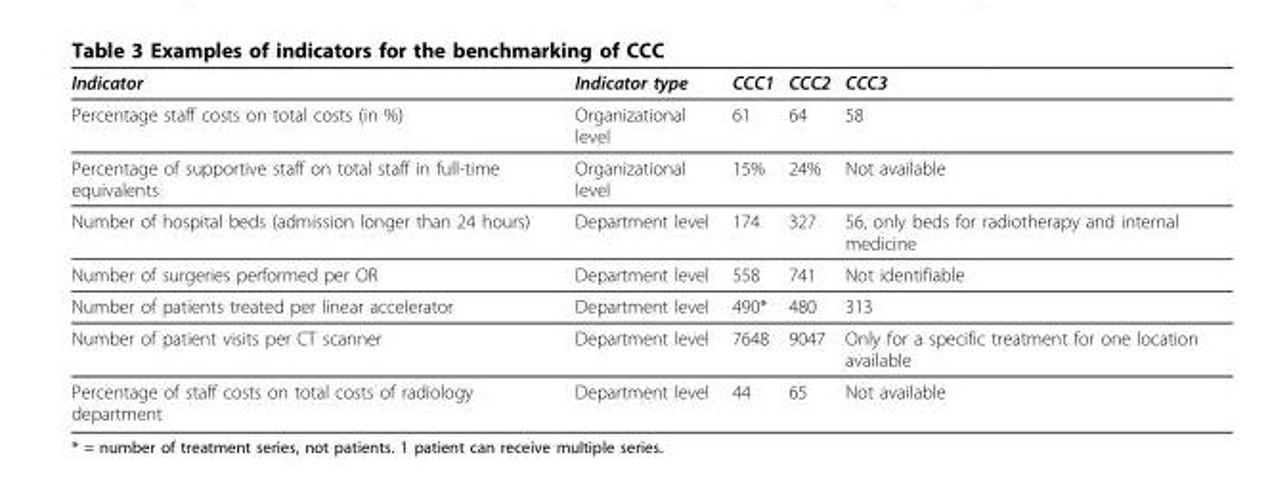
<table><thead><tr><td>Indicator</td><td>Indicator type</td><td>CCC1</td><td>CCC2</td><td>CCC3</td></tr></thead><tbody><tr><td>Percentage staff costs on total costs (in %)</td><td>Organizational level</td><td>61</td><td>64</td><td>58</td></tr><tr><td>Percentage of supportive staff on total staff in full-time equivalents</td><td>Organizational level</td><td>15%</td><td>24%</td><td>Not available</td></tr><tr><td>Number of hospital beds (admission longer than 24 hours)</td><td>Department level</td><td>174</td><td>327</td><td>56, only beds for radiotherapy and internal medicine</td></tr><tr><td>Number of surgeries performed per OR</td><td>Department level</td><td>558</td><td>741</td><td>Not identifiable</td></tr><tr><td>Number of patients treated per linear accelerator</td><td>Department level</td><td>490*</td><td>480</td><td>313</td></tr><tr><td>Number of patient visits per CT scanner</td><td>Department level</td><td>7648</td><td>9047</td><td>Only for a specific treatment for one location available</td></tr><tr><td>Percentage of staff costs on total costs of radiology department</td><td>Department level</td><td>44</td><td>65</td><td>Not available</td></tr></tbody></table>